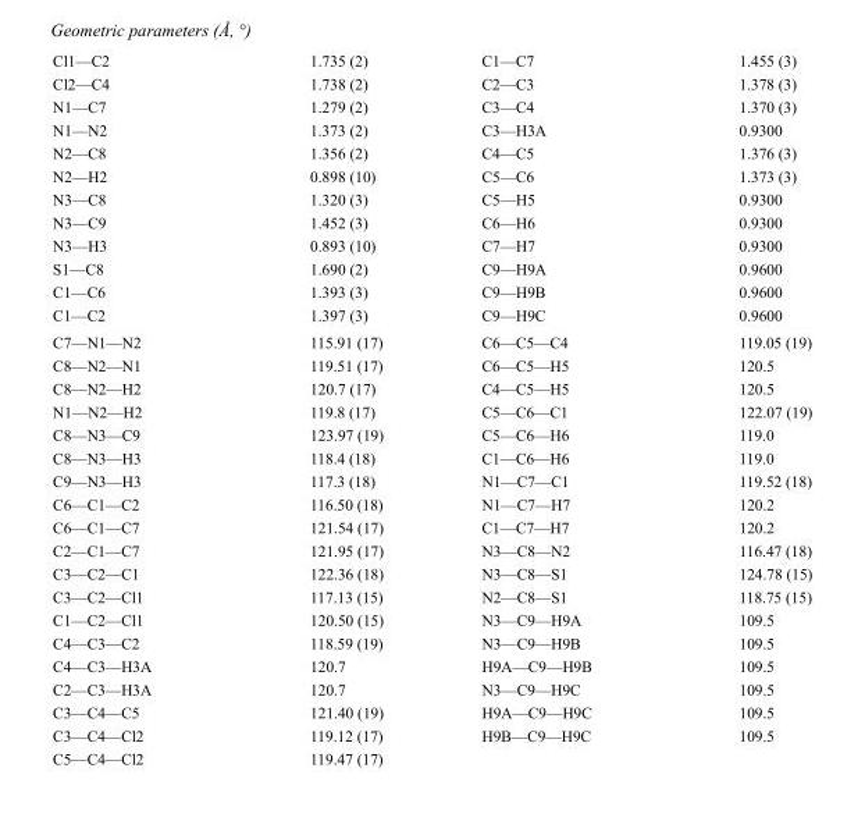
<table><tbody><tr><td>Cl1—C2</td><td>1.735 (2)</td><td>C1—C7</td><td>1.455 (3)</td></tr><tr><td>Cl2—C4</td><td>1.738 (2)</td><td>C2—C3</td><td>1.378 (3)</td></tr><tr><td>N1—C7</td><td>1.279 (2)</td><td>C3—C4</td><td>1.370 (3)</td></tr><tr><td>N1—N2</td><td>1.373 (2)</td><td>C3—H3A</td><td>0.9300</td></tr><tr><td>N2—C8</td><td>1.356 (2)</td><td>C4—C5</td><td>1.376 (3)</td></tr><tr><td>N2—H2</td><td>0.898 (10)</td><td>C5—C6</td><td>1.373 (3)</td></tr><tr><td>N3—C8</td><td>1.320 (3)</td><td>C5—H5</td><td>0.9300</td></tr><tr><td>N3—C9</td><td>1.452 (3)</td><td>C6—H6</td><td>0.9300</td></tr><tr><td>N3—H3</td><td>0.893 (10)</td><td>C7—H7</td><td>0.9300</td></tr><tr><td>S1—C8</td><td>1.690 (2)</td><td>C9—H9A</td><td>0.9600</td></tr><tr><td>C1—C6</td><td>1.393 (3)</td><td>C9—H9B</td><td>0.9600</td></tr><tr><td>C1—C2</td><td>1.397 (3)</td><td>C9—H9C</td><td>0.9600</td></tr><tr><td>C7—N1—N2</td><td>115.91 (17)</td><td>C6—C5—C4</td><td>119.05 (19)</td></tr><tr><td>C8—N2—N1</td><td>119.51 (17)</td><td>C6—C5—H5</td><td>120.5</td></tr><tr><td>C8—N2—H2</td><td>120.7 (17)</td><td>C4—C5—H5</td><td>120.5</td></tr><tr><td>N1—N2—H2</td><td>119.8 (17)</td><td>C5—C6—C1</td><td>122.07 (19)</td></tr><tr><td>C8—N3—C9</td><td>123.97 (19)</td><td>C5—C6—H6</td><td>119.0</td></tr><tr><td>C8—N3—H3</td><td>118.4 (18)</td><td>C1—C6—H6</td><td>119.0</td></tr><tr><td>C9—N3—H3</td><td>117.3 (18)</td><td>N1—C7—C1</td><td>119.52 (18)</td></tr><tr><td>C6—C1—C2</td><td>116.50 (18)</td><td>N1—C7—H7</td><td>120.2</td></tr><tr><td>C6—C1—C7</td><td>121.54 (17)</td><td>C1—C7—H7</td><td>120.2</td></tr><tr><td>C2—C1—C7</td><td>121.95 (17)</td><td>N3—C8—N2</td><td>116.47 (18)</td></tr><tr><td>C3—C2—C1</td><td>122.36 (18)</td><td>N3—C8—S1</td><td>124.78 (15)</td></tr><tr><td>C3—C2—Cl1</td><td>117.13 (15)</td><td>N2—C8—S1</td><td>118.75 (15)</td></tr><tr><td>C1—C2—Cl1</td><td>120.50 (15)</td><td>N3—C9—H9A</td><td>109.5</td></tr><tr><td>C4—C3—C2</td><td>118.59 (19)</td><td>N3—C9—H9B</td><td>109.5</td></tr><tr><td>C4—C3—H3A</td><td>120.7</td><td>H9A—C9—H9B</td><td>109.5</td></tr><tr><td>C2—C3—H3A</td><td>120.7</td><td>N3—C9—H9C</td><td>109.5</td></tr><tr><td>C3—C4—C5</td><td>121.40 (19)</td><td>H9A—C9—H9C</td><td>109.5</td></tr><tr><td>C3—C4—Cl2</td><td>119.12 (17)</td><td>H9B—C9—H9C</td><td>109.5</td></tr><tr><td>C5—C4—Cl2</td><td>119.47 (17)</td><td></td><td></td></tr></tbody></table>